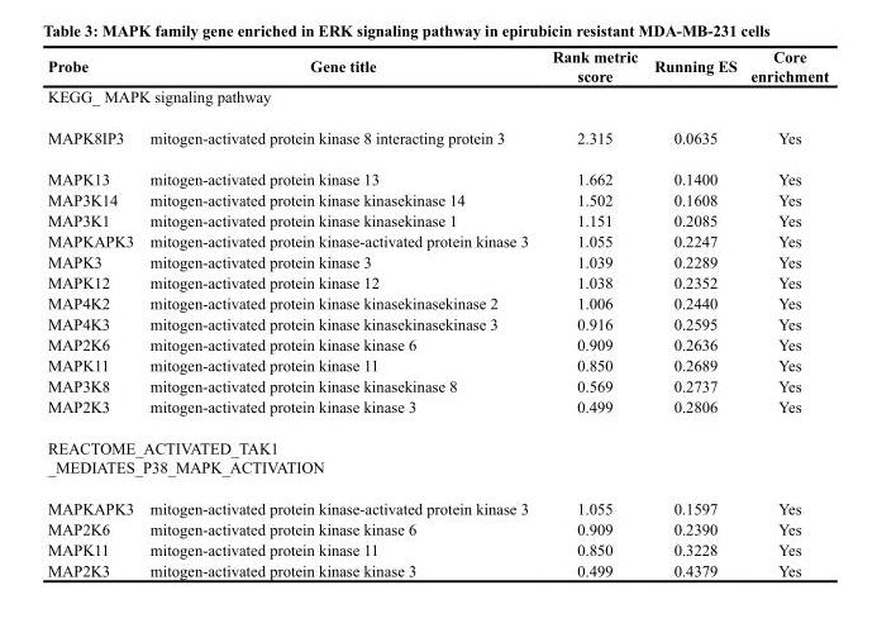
<table><thead><tr><td>Probe</td><td>Gene title</td><td>Rank metric score</td><td>Running ES</td><td>Core enrichment</td></tr></thead><tbody><tr><td colspan="5">KEGG_ MAPK signaling pathway</td></tr><tr><td>MAPK8IP3</td><td>mitogen-activated protein kinase 8 interacting protein 3</td><td>2.315</td><td>0.0635</td><td>Yes</td></tr><tr><td>MAPK13</td><td>mitogen-activated protein kinase 13</td><td>1.662</td><td>0.1400</td><td>Yes</td></tr><tr><td>MAP3K14</td><td>mitogen-activated protein kinase kinasekinase 14</td><td>1.502</td><td>0.1608</td><td>Yes</td></tr><tr><td>MAP3K1</td><td>mitogen-activated protein kinase kinasekinase 1</td><td>1.151</td><td>0.2085</td><td>Yes</td></tr><tr><td>MAPKAPK3</td><td>mitogen-activated protein kinase-activated protein kinase 3</td><td>1.055</td><td>0.2247</td><td>Yes</td></tr><tr><td>MAPK3</td><td>mitogen-activated protein kinase 3</td><td>1.039</td><td>0.2289</td><td>Yes</td></tr><tr><td>MAPK12</td><td>mitogen-activated protein kinase 12</td><td>1.038</td><td>0.2352</td><td>Yes</td></tr><tr><td>MAP4K2</td><td>mitogen-activated protein kinase kinasekinasekinase 2</td><td>1.006</td><td>0.2440</td><td>Yes</td></tr><tr><td>MAP4K3</td><td>mitogen-activated protein kinase kinasekinasekinase 3</td><td>0.916</td><td>0.2595</td><td>Yes</td></tr><tr><td>MAP2K6</td><td>mitogen-activated protein kinase kinase 6</td><td>0.909</td><td>0.2636</td><td>Yes</td></tr><tr><td>MAPK11</td><td>mitogen-activated protein kinase 11</td><td>0.850</td><td>0.2689</td><td>Yes</td></tr><tr><td>MAP3K8</td><td>mitogen-activated protein kinase kinasekinase 8</td><td>0.569</td><td>0.2737</td><td>Yes</td></tr><tr><td>MAP2K3</td><td>mitogen-activated protein kinase kinase 3</td><td>0.499</td><td>0.2806</td><td>Yes</td></tr><tr><td colspan="5">REACTOME_ACTIVATED_TAK1 _MEDIATES_P38_MAPK_ACTIVATION</td></tr><tr><td>MAPKAPK3</td><td>mitogen-activated protein kinase-activated protein kinase 3</td><td>1.055</td><td>0.1597</td><td>Yes</td></tr><tr><td>MAP2K6</td><td>mitogen-activated protein kinase kinase 6</td><td>0.909</td><td>0.2390</td><td>Yes</td></tr><tr><td>MAPK11</td><td>mitogen-activated protein kinase 11</td><td>0.850</td><td>0.3228</td><td>Yes</td></tr><tr><td>MAP2K3</td><td>mitogen-activated protein kinase kinase 3</td><td>0.499</td><td>0.4379</td><td>Yes</td></tr></tbody></table>